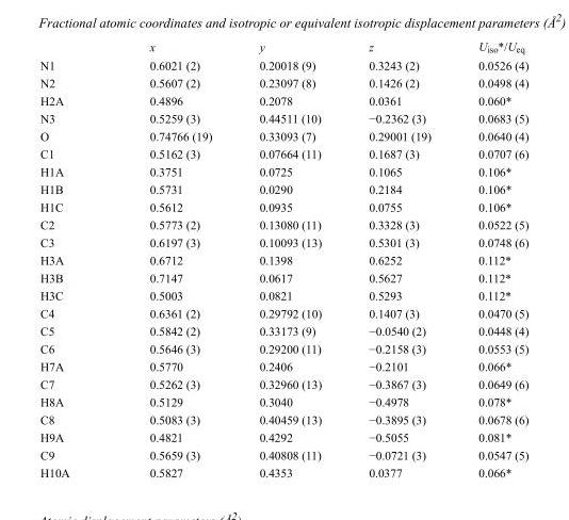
<table><thead><tr><td></td><td>x</td><td>y</td><td>z</td><td>U<sub>iso</sub>*/U<sub>eq</sub></td></tr></thead><tbody><tr><td>N1</td><td>0.6021 (2)</td><td>0.20018 (9)</td><td>0.3243 (2)</td><td>0.0526 (4)</td></tr><tr><td>N2</td><td>0.5607 (2)</td><td>0.23097 (8)</td><td>0.1426 (2)</td><td>0.0498 (4)</td></tr><tr><td>H2A</td><td>0.4896</td><td>0.2078</td><td>0.0361</td><td>0.060*</td></tr><tr><td>N3</td><td>0.5259 (3)</td><td>0.44511 (10)</td><td>−0.2362 (3)</td><td>0.0683 (5)</td></tr><tr><td>O</td><td>0.74766 (19)</td><td>0.33093 (7)</td><td>0.29001 (19)</td><td>0.0640 (4)</td></tr><tr><td>C1</td><td>0.5162 (3)</td><td>0.07664 (11)</td><td>0.1687 (3)</td><td>0.0707 (6)</td></tr><tr><td>H1A</td><td>0.3751</td><td>0.0725</td><td>0.1065</td><td>0.106*</td></tr><tr><td>H1B</td><td>0.5731</td><td>0.0290</td><td>0.2184</td><td>0.106*</td></tr><tr><td>H1C</td><td>0.5612</td><td>0.0935</td><td>0.0755</td><td>0.106*</td></tr><tr><td>C2</td><td>0.5773 (2)</td><td>0.13080 (11)</td><td>0.3328 (3)</td><td>0.0522 (5)</td></tr><tr><td>C3</td><td>0.6197 (3)</td><td>0.10093 (13)</td><td>0.5301 (3)</td><td>0.0748 (6)</td></tr><tr><td>H3A</td><td>0.6712</td><td>0.1398</td><td>0.6252</td><td>0.112*</td></tr><tr><td>H3B</td><td>0.7147</td><td>0.0617</td><td>0.5627</td><td>0.112*</td></tr><tr><td>H3C</td><td>0.5003</td><td>0.0821</td><td>0.5293</td><td>0.112*</td></tr><tr><td>C4</td><td>0.6361 (2)</td><td>0.29792 (10)</td><td>0.1407 (3)</td><td>0.0470 (5)</td></tr><tr><td>C5</td><td>0.5842 (2)</td><td>0.33173 (9)</td><td>−0.0540 (2)</td><td>0.0448 (4)</td></tr><tr><td>C6</td><td>0.5646 (3)</td><td>0.29200 (11)</td><td>−0.2158 (3)</td><td>0.0553 (5)</td></tr><tr><td>H7A</td><td>0.5770</td><td>0.2406</td><td>−0.2101</td><td>0.066*</td></tr><tr><td>C7</td><td>0.5262 (3)</td><td>0.32960 (13)</td><td>−0.3867 (3)</td><td>0.0649 (6)</td></tr><tr><td>H8A</td><td>0.5129</td><td>0.3040</td><td>−0.4978</td><td>0.078*</td></tr><tr><td>C8</td><td>0.5083 (3)</td><td>0.40459 (13)</td><td>−0.3895 (3)</td><td>0.0678 (6)</td></tr><tr><td>H9A</td><td>0.4821</td><td>0.4292</td><td>−0.5055</td><td>0.081*</td></tr><tr><td>C9</td><td>0.5659 (3)</td><td>0.40808 (11)</td><td>−0.0721 (3)</td><td>0.0547 (5)</td></tr><tr><td>H10A</td><td>0.5827</td><td>0.4353</td><td>0.0377</td><td>0.066*</td></tr></tbody></table>